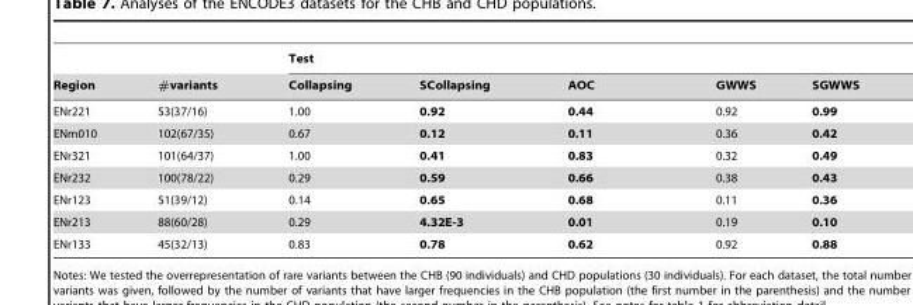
<table><thead><tr><td rowspan="2">Region</td><td rowspan="2">#variants</td><td colspan="5">Test</td></tr><tr><td>Collapsing</td><td>SCollapsing</td><td>AOC</td><td>GWWS</td><td>SGWWS</td></tr></thead><tbody><tr><td>ENr221</td><td>53(37/16)</td><td>1.00</td><td>0.92</td><td>0.44</td><td>0.92</td><td>0.99</td></tr><tr><td>ENm010</td><td>102(67/35)</td><td>0.67</td><td>0.12</td><td>0.11</td><td>0.36</td><td>0.42</td></tr><tr><td>ENr321</td><td>101(64/37)</td><td>1.00</td><td>0.41</td><td>0.83</td><td>0.32</td><td>0.49</td></tr><tr><td>ENr232</td><td>100(78/22)</td><td>0.29</td><td>0.59</td><td>0.66</td><td>0.38</td><td>0.43</td></tr><tr><td>ENr123</td><td>51(39/12)</td><td>0.14</td><td>0.65</td><td>0.68</td><td>0.11</td><td>0.36</td></tr><tr><td>ENr213</td><td>88(60/28)</td><td>0.29</td><td>4.32E-3</td><td>0.01</td><td>0.19</td><td>0.10</td></tr><tr><td>ENr133</td><td>45(32/13)</td><td>0.83</td><td>0.78</td><td>0.62</td><td>0.92</td><td>0.88</td></tr></tbody></table>